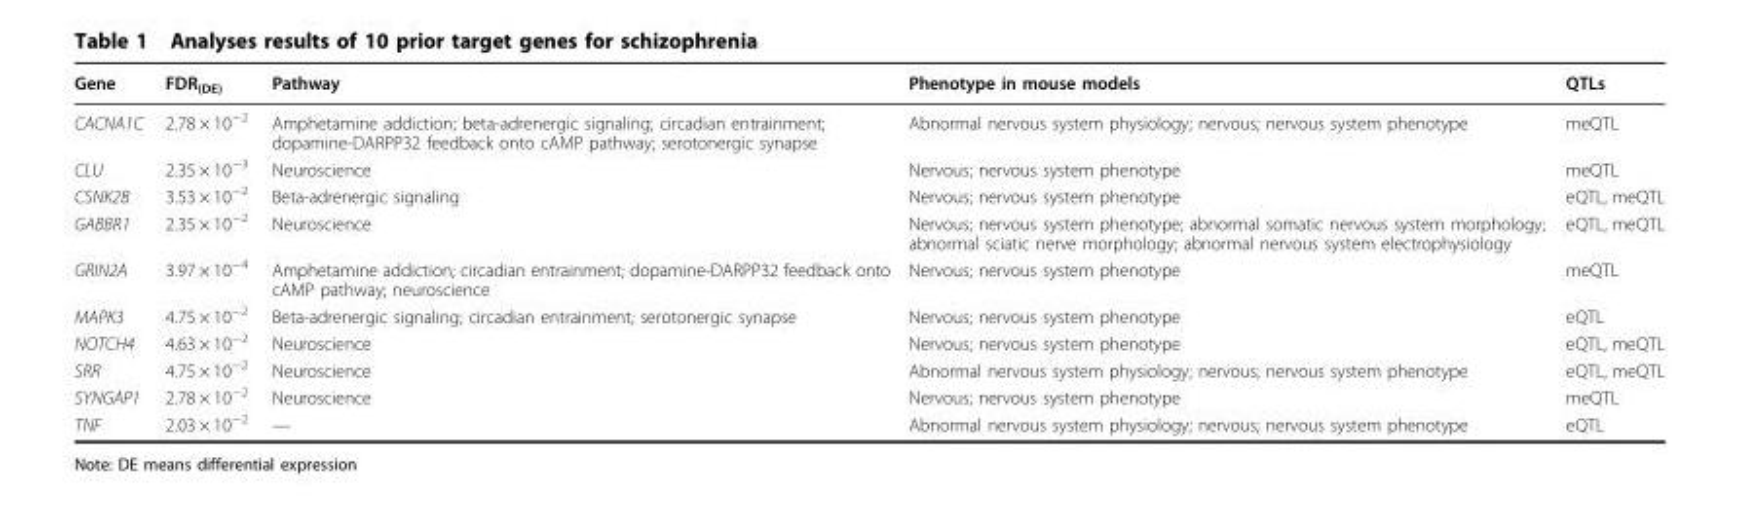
<table><thead><tr><td>Gene</td><td>FDR<sub>(DE)</sub></td><td>Pathway</td><td>Phenotype in mouse models</td><td>QTLs</td></tr></thead><tbody><tr><td>CACNA1C</td><td>2.78 × 10<sup>−2</sup></td><td>Amphetamine addiction; beta-adrenergic signaling; circadian entrainment; dopamine-DARPP32 feedback onto cAMP pathway; serotonergic synapse</td><td>Abnormal nervous system physiology; nervous; nervous system phenotype</td><td>meQTL</td></tr><tr><td>CLU</td><td>2.35 × 10<sup>−3</sup></td><td>Neuroscience</td><td>Nervous; nervous system phenotype</td><td>meQTL</td></tr><tr><td>CSNK2B</td><td>3.53 × 10<sup>−2</sup></td><td>Beta-adrenergic signaling</td><td>Nervous; nervous system phenotype</td><td>eQTL, meQTL</td></tr><tr><td>GABBR1</td><td>2.35 × 10<sup>−2</sup></td><td>Neuroscience</td><td>Nervous; nervous system phenotype; abnormal somatic nervous system morphology; abnormal sciatic nerve morphology; abnormal nervous system electrophysiology</td><td>eQTL, meQTL</td></tr><tr><td>GRIN2A</td><td>3.97 × 10<sup>−4</sup></td><td>Amphetamine addiction; circadian entrainment; dopamine-DARPP32 feedback onto cAMP pathway; neuroscience</td><td>Nervous; nervous system phenotype</td><td>meQTL</td></tr><tr><td>MAPK3</td><td>4.75 × 10<sup>−2</sup></td><td>Beta-adrenergic signaling; circadian entrainment; serotonergic synapse</td><td>Nervous; nervous system phenotype</td><td>eQTL</td></tr><tr><td>NOTCH4</td><td>4.63 × 10<sup>−2</sup></td><td>Neuroscience</td><td>Nervous; nervous system phenotype</td><td>eQTL, meQTL</td></tr><tr><td>SRR</td><td>4.75 × 10<sup>−2</sup></td><td>Neuroscience</td><td>Abnormal nervous system physiology; nervous; nervous system phenotype</td><td>eQTL, meQTL</td></tr><tr><td>SYNGAP1</td><td>2.78 × 10<sup>−2</sup></td><td>Neuroscience</td><td>Nervous; nervous system phenotype</td><td>meQTL</td></tr><tr><td>TNF</td><td>2.03 × 10<sup>−2</sup></td><td>—</td><td>Abnormal nervous system physiology; nervous; nervous system phenotype</td><td>eQTL</td></tr></tbody></table>